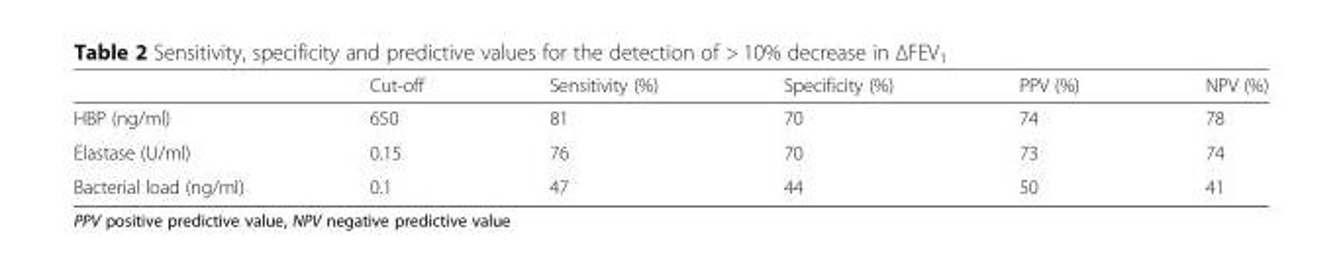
<table><thead><tr><td></td><td>Cut-off</td><td>Sensitivity (%)</td><td>Specificity (%)</td><td>PPV (%)</td><td>NPV (%)</td></tr></thead><tbody><tr><td>HBP (ng/ml)</td><td>650</td><td>81</td><td>70</td><td>74</td><td>78</td></tr><tr><td>Elastase (U/ml)</td><td>0.15</td><td>76</td><td>70</td><td>73</td><td>74</td></tr><tr><td>Bacterial load (ng/ml)</td><td>0.1</td><td>47</td><td>44</td><td>50</td><td>41</td></tr></tbody></table>